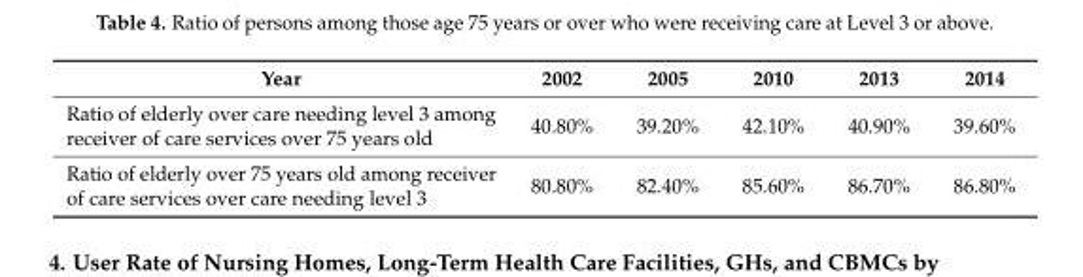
<table><thead><tr><td>Year</td><td>2002</td><td>2005</td><td>2010</td><td>2013</td><td>2014</td></tr></thead><tbody><tr><td>Ratio of elderly over care needing level 3 among receiver of care services over 75 years old</td><td>40.80%</td><td>39.20%</td><td>42.10%</td><td>40.90%</td><td>39.60%</td></tr><tr><td>Ratio of elderly over 75 years old among receiver of care services over care needing level 3</td><td>80.80%</td><td>82.40%</td><td>85.60%</td><td>86.70%</td><td>86.80%</td></tr></tbody></table>